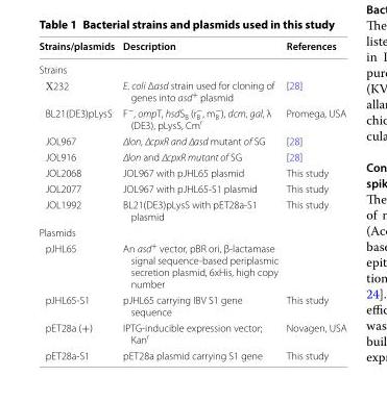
<table><thead><tr><td>Strains/plasmids</td><td>Description</td><td>References</td></tr></thead><tbody><tr><td colspan="3">Strains</td></tr><tr><td>Χ232</td><td>E. coli Δasd strain used for cloning of genes into asd<sup>+</sup> plasmid</td><td>[28]</td></tr><tr><td>BL21(DE3)pLysS</td><td>F<sup>−</sup>, ompT, hsdS<sub>B</sub> (r<sub>B</sub> <sup>−</sup>, m<sub>B</sub> <sup>−</sup>), dcm, gal, λ (DE3), pLysS, Cm<sup>r</sup></td><td>Promega, USA</td></tr><tr><td>JOL967</td><td>∆lon, ∆cpxR and ∆asd mutant of SG</td><td>[28]</td></tr><tr><td>JOL916</td><td>∆lon and ∆cpxR mutant of SG</td><td>[28]</td></tr><tr><td>JOL2068</td><td>JOL967 with pJHL65 plasmid</td><td>This study</td></tr><tr><td>JOL2077</td><td>JOL967 with pJHL65-S1 plasmid</td><td>This study</td></tr><tr><td>JOL1992</td><td>BL21(DE3)pLysS with pET28a-S1 plasmid</td><td>This study</td></tr><tr><td colspan="3">Plasmids</td></tr><tr><td>pJHL65</td><td>An asd<sup>+</sup> vector, pBR ori, β-lactamase signal sequence-based periplasmic secretion plasmid, 6xHis, high copy number</td><td></td></tr><tr><td>pJHL65-S1</td><td>pJHL65 carrying IBV S1 gene sequence</td><td>This study</td></tr><tr><td>pET28a (+)</td><td>IPTG-inducible expression vector; Kan<sup>r</sup></td><td>Novagen, USA</td></tr><tr><td>pET28a-S1</td><td>pET28a plasmid carrying S1 gene</td><td>This study</td></tr></tbody></table>